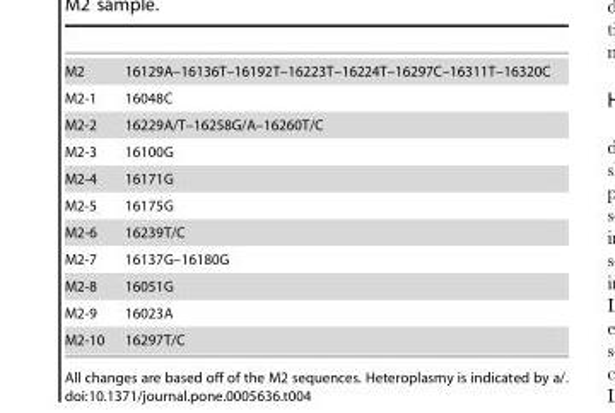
<table><tbody><tr><td>M2</td><td>16129A–16136T–16192T–16223T–16224T–16297C–16311T–16320C</td></tr><tr><td>M2-1</td><td>16048C</td></tr><tr><td>M2-2</td><td>16229A/T–16258G/A–16260T/C</td></tr><tr><td>M2-3</td><td>16100G</td></tr><tr><td>M2-4</td><td>16171G</td></tr><tr><td>M2-5</td><td>16175G</td></tr><tr><td>M2-6</td><td>16239T/C</td></tr><tr><td>M2-7</td><td>16137G–16180G</td></tr><tr><td>M2-8</td><td>16051G</td></tr><tr><td>M2-9</td><td>16023A</td></tr><tr><td>M2-10</td><td>16297T/C</td></tr></tbody></table>